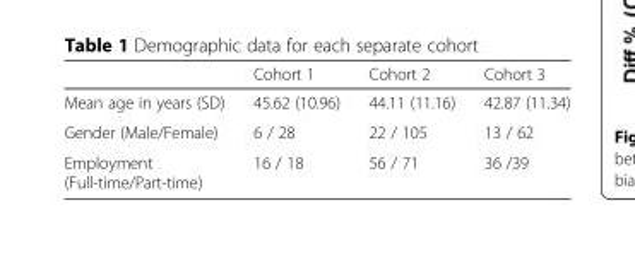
<table><thead><tr><td></td><td>Cohort 1</td><td>Cohort 2</td><td>Cohort 3</td></tr></thead><tbody><tr><td>Mean age in years (SD)</td><td>45.62 (10.96)</td><td>44.11 (11.16)</td><td>42.87 (11.34)</td></tr><tr><td>Gender (Male/Female)</td><td>6 / 28</td><td>22 / 105</td><td>13 / 62</td></tr><tr><td>Employment (Full-time/Part-time)</td><td>16 / 18</td><td>56 / 71</td><td>36 /39</td></tr></tbody></table>